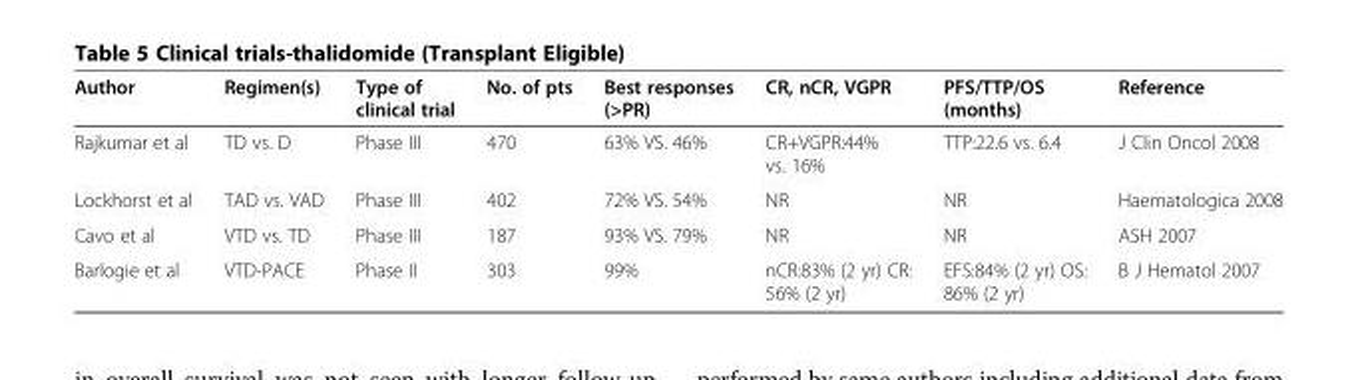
<table><thead><tr><td>Author</td><td>Regimen(s)</td><td>Type of clinical trial</td><td>No. of pts</td><td>Best responses (&gt;PR)</td><td>CR, nCR, VGPR</td><td>PFS/TTP/OS (months)</td><td>Reference</td></tr></thead><tbody><tr><td>Rajkumar et al</td><td>TD vs. D</td><td>Phase III</td><td>470</td><td>63% VS. 46%</td><td>CR+VGPR:44% vs. 16%</td><td>TTP:22.6 vs. 6.4</td><td>J Clin Oncol 2008</td></tr><tr><td>Lockhorst et al</td><td>TAD vs. VAD</td><td>Phase III</td><td>402</td><td>72% VS. 54%</td><td>NR</td><td>NR</td><td>Haematologica 2008</td></tr><tr><td>Cavo et al</td><td>VTD vs. TD</td><td>Phase III</td><td>187</td><td>93% VS. 79%</td><td>NR</td><td>NR</td><td>ASH 2007</td></tr><tr><td>Barlogie et al</td><td>VTD-PACE</td><td>Phase II</td><td>303</td><td>99%</td><td>nCR:83% (2 yr) CR: 56% (2 yr)</td><td>EFS:84% (2 yr) OS: 86% (2 yr)</td><td>B J Hematol 2007</td></tr></tbody></table>